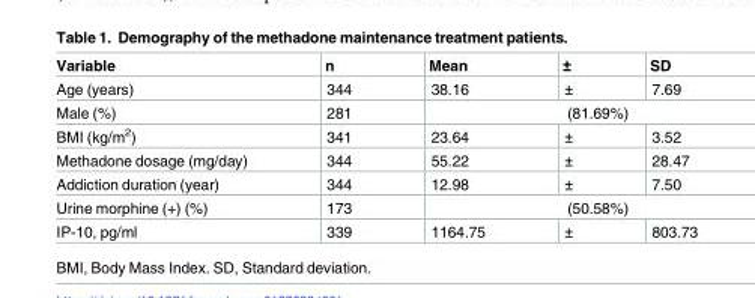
<table><thead><tr><td>Variable</td><td>n</td><td>Mean</td><td>±</td><td>SD</td></tr></thead><tbody><tr><td>Age (years)</td><td>344</td><td>38.16</td><td>±</td><td>7.69</td></tr><tr><td>Male (%)</td><td>281</td><td colspan="3">(81.69%)</td></tr><tr><td>BMI (kg/m<sup>2</sup>)</td><td>341</td><td>23.64</td><td>±</td><td>3.52</td></tr><tr><td>Methadone dosage (mg/day)</td><td>344</td><td>55.22</td><td>±</td><td>28.47</td></tr><tr><td>Addiction duration (year)</td><td>344</td><td>12.98</td><td>±</td><td>7.50</td></tr><tr><td>Urine morphine (+) (%)</td><td>173</td><td colspan="3">(50.58%)</td></tr><tr><td>IP-10, pg/ml</td><td>339</td><td>1164.75</td><td>±</td><td>803.73</td></tr></tbody></table>